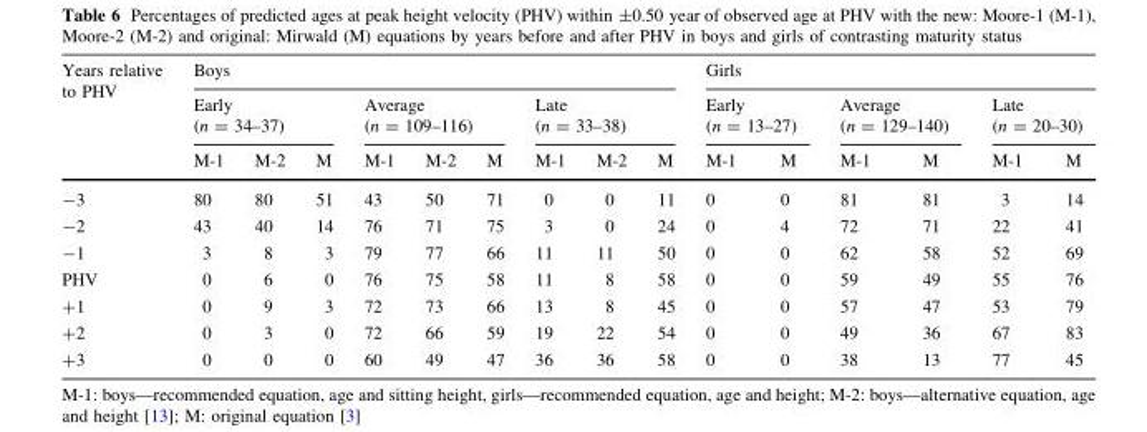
<table><thead><tr><td rowspan="3">Years relative to PHV</td><td colspan="9">Boys</td><td colspan="6">Girls</td></tr><tr><td colspan="3">Early (n = 34–37)</td><td colspan="3">Average (n = 109–116)</td><td colspan="3">Late (n = 33–38)</td><td colspan="2">Early (n = 13–27)</td><td colspan="2">Average (n = 129–140)</td><td colspan="2">Late (n = 20–30)</td></tr><tr><td>M-1</td><td>M-2</td><td>M</td><td>M-1</td><td>M-2</td><td>M</td><td>M-1</td><td>M-2</td><td>M</td><td>M-1</td><td>M</td><td>M-1</td><td>M</td><td>M-1</td><td>M</td></tr></thead><tbody><tr><td>-3</td><td>80</td><td>80</td><td>51</td><td>43</td><td>50</td><td>71</td><td>0</td><td>0</td><td>11</td><td>0</td><td>0</td><td>81</td><td>81</td><td>3</td><td>14</td></tr><tr><td>-2</td><td>43</td><td>40</td><td>14</td><td>76</td><td>71</td><td>75</td><td>3</td><td>0</td><td>24</td><td>0</td><td>4</td><td>72</td><td>71</td><td>22</td><td>41</td></tr><tr><td>-1</td><td>3</td><td>8</td><td>3</td><td>79</td><td>77</td><td>66</td><td>11</td><td>11</td><td>50</td><td>0</td><td>0</td><td>62</td><td>58</td><td>52</td><td>69</td></tr><tr><td>PHV</td><td>0</td><td>6</td><td>0</td><td>76</td><td>75</td><td>58</td><td>11</td><td>8</td><td>58</td><td>0</td><td>0</td><td>59</td><td>49</td><td>55</td><td>76</td></tr><tr><td>+1</td><td>0</td><td>9</td><td>3</td><td>72</td><td>73</td><td>66</td><td>13</td><td>8</td><td>45</td><td>0</td><td>0</td><td>57</td><td>47</td><td>53</td><td>79</td></tr><tr><td>+2</td><td>0</td><td>3</td><td>0</td><td>72</td><td>66</td><td>59</td><td>19</td><td>22</td><td>54</td><td>0</td><td>0</td><td>49</td><td>36</td><td>67</td><td>83</td></tr><tr><td>+3</td><td>0</td><td>0</td><td>0</td><td>60</td><td>49</td><td>47</td><td>36</td><td>36</td><td>58</td><td>0</td><td>0</td><td>38</td><td>13</td><td>77</td><td>45</td></tr></tbody></table>